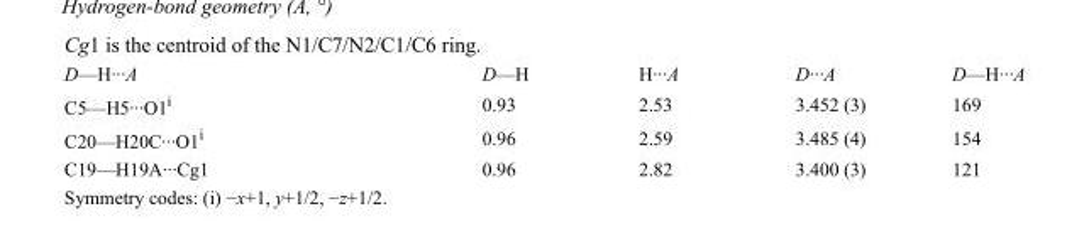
<table><tbody><tr><td>D—H···A</td><td>D—H</td><td>H···A</td><td>D···A</td><td>D—H···A</td></tr><tr><td>C5—H5···O1<sup>i</sup></td><td>0.93</td><td>2.53</td><td>3.452 (3)</td><td>169</td></tr><tr><td>C20—H20C···O1<sup>i</sup></td><td>0.96</td><td>2.59</td><td>3.485 (4)</td><td>154</td></tr><tr><td>C19—H19A···Cg1</td><td>0.96</td><td>2.82</td><td>3.400 (3)</td><td>121</td></tr></tbody></table>